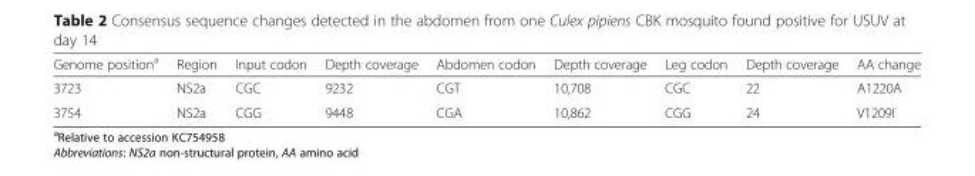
<table><thead><tr><td>Genome position<sup>a</sup></td><td>Region</td><td>Input codon</td><td>Depth coverage</td><td>Abdomen codon</td><td>Depth coverage</td><td>Leg codon</td><td>Depth coverage</td><td>AA change</td></tr></thead><tbody><tr><td>3723</td><td>NS2a</td><td>CGC</td><td>9232</td><td>CGT</td><td>10,708</td><td>CGC</td><td>22</td><td>A1220A</td></tr><tr><td>3754</td><td>NS2a</td><td>CGG</td><td>9448</td><td>CGA</td><td>10,862</td><td>CGG</td><td>24</td><td>V1209I</td></tr></tbody></table>